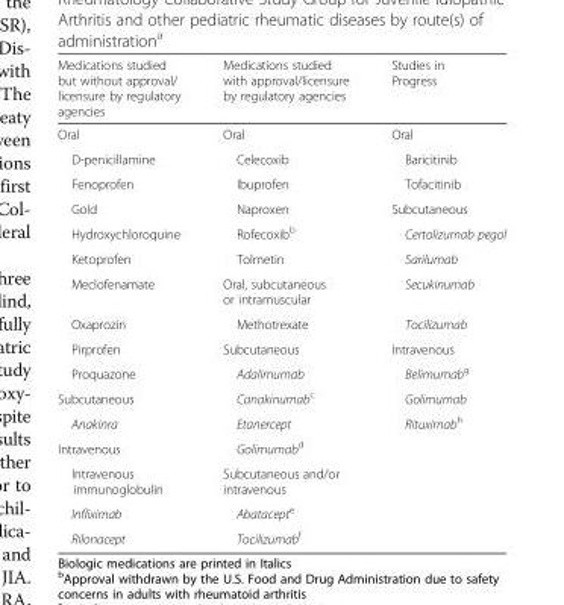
<table><thead><tr><td>Medications studied but without approval/ licensure by regulatory agencies</td><td>Medications studied with approval/licensure by regulatory agencies</td><td>Studies in Progress</td></tr></thead><tbody><tr><td>Oral</td><td>Oral</td><td>Oral</td></tr><tr><td>D-penicillamine</td><td>Celecoxib</td><td>Baricitinib</td></tr><tr><td>Fenoprofen</td><td>Ibuprofen</td><td>Tofacitinib</td></tr><tr><td>Gold</td><td>Naproxen</td><td>Subcutaneous</td></tr><tr><td>Hydroxychloroquine</td><td>Rofecoxib<sup>b</sup></td><td>Certolizumab pegol</td></tr><tr><td>Ketoprofen</td><td>Tolmetin</td><td>Sarilumab</td></tr><tr><td>Meclofenamate</td><td>Oral, subcutaneous or intramuscular</td><td>Secukinumab</td></tr><tr><td>Oxaprozin</td><td>Methotrexate</td><td>Tocilizumab</td></tr><tr><td>Pirprofen</td><td>Subcutaneous</td><td>Intravenous</td></tr><tr><td>Proquazone</td><td>Adalimumab</td><td>Belimumab<sup>g</sup></td></tr><tr><td>Subcutaneous</td><td>Canakinumab<sup>c</sup></td><td>Golimumab</td></tr><tr><td>Anakinra</td><td>Etanercept</td><td>Rituximab<sup>h</sup></td></tr><tr><td>Intravenous</td><td>Golimumab<sup>d</sup></td><td></td></tr><tr><td>Intravenous immunoglobulin</td><td>Subcutaneous and/or intravenous</td><td></td></tr><tr><td>Infliximab</td><td>Abatacept<sup>e</sup></td><td></td></tr><tr><td>Rilonacept</td><td>Tocilizumab<sup>f</sup></td><td></td></tr></tbody></table>